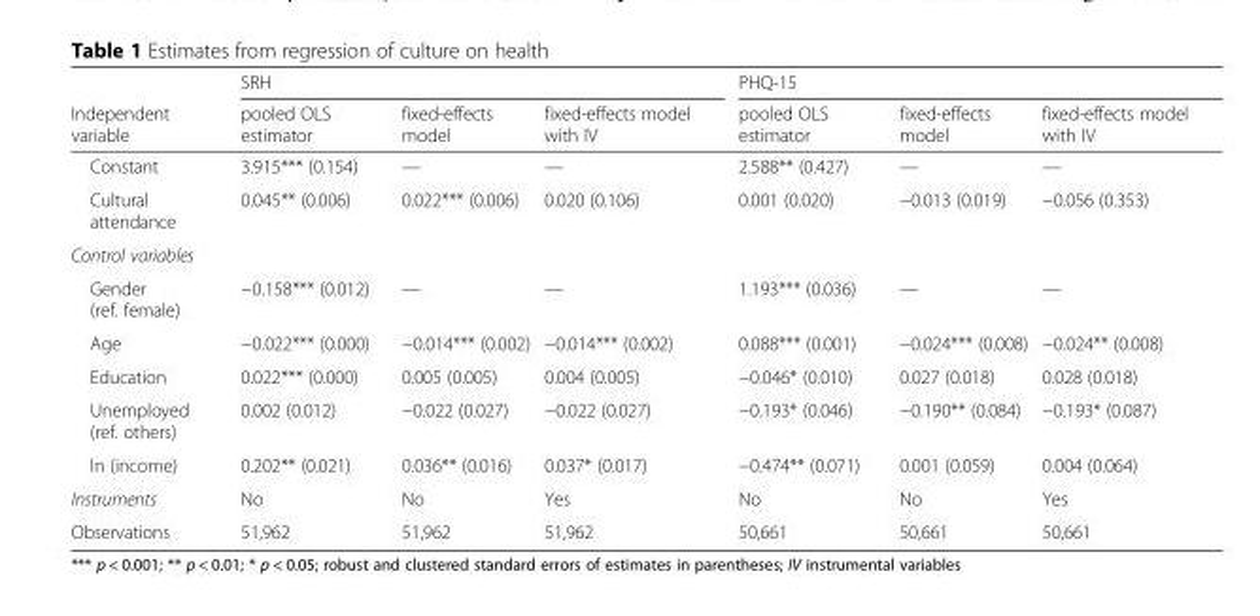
<table><thead><tr><td rowspan="2">Independent variable</td><td colspan="3">SRH</td><td colspan="3">PHQ-15</td></tr><tr><td>pooled OLS estimator</td><td>fixed-effects model</td><td>fixed-effects model with IV</td><td>pooled OLS estimator</td><td>fixed-effects model</td><td>fixed-effects model with IV</td></tr></thead><tbody><tr><td>Constant</td><td>3.915*** (0.154)</td><td>—</td><td>—</td><td>2.588** (0.427)</td><td>—</td><td>—</td></tr><tr><td>Cultural attendance</td><td>0.045** (0.006)</td><td>0.022*** (0.006)</td><td>0.020 (0.106)</td><td>0.001 (0.020)</td><td>−0.013 (0.019)</td><td>−0.056 (0.353)</td></tr><tr><td colspan="7">Control variables</td></tr><tr><td>Gender (ref. female)</td><td>−0.158*** (0.012)</td><td>—</td><td>—</td><td>1.193*** (0.036)</td><td>—</td><td>—</td></tr><tr><td>Age</td><td>−0.022*** (0.000)</td><td>−0.014*** (0.002)</td><td>−0.014*** (0.002)</td><td>0.088*** (0.001)</td><td>−0.024*** (0.008)</td><td>−0.024** (0.008)</td></tr><tr><td>Education</td><td>0.022*** (0.000)</td><td>0.005 (0.005)</td><td>0.004 (0.005)</td><td>−0.046* (0.010)</td><td>0.027 (0.018)</td><td>0.028 (0.018)</td></tr><tr><td>Unemployed (ref. others)</td><td>0.002 (0.012)</td><td>−0.022 (0.027)</td><td>−0.022 (0.027)</td><td>−0.193* (0.046)</td><td>−0.190** (0.084)</td><td>−0.193* (0.087)</td></tr><tr><td>ln (income)</td><td>0.202** (0.021)</td><td>0.036** (0.016)</td><td>0.037* (0.017)</td><td>−0.474** (0.071)</td><td>0.001 (0.059)</td><td>0.004 (0.064)</td></tr><tr><td>Instruments</td><td>No</td><td>No</td><td>Yes</td><td>No</td><td>No</td><td>Yes</td></tr><tr><td>Observations</td><td>51,962</td><td>51,962</td><td>51,962</td><td>50,661</td><td>50,661</td><td>50,661</td></tr></tbody></table>